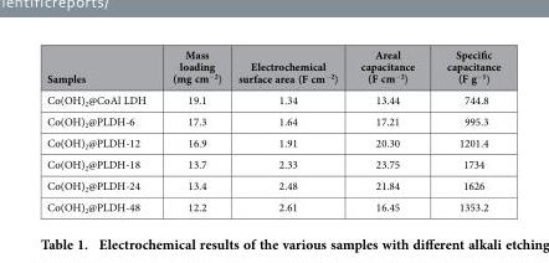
<table><thead><tr><td>Samples</td><td>Mass loading (mg cm<sup>−2</sup>)</td><td>Electrochemical surface area (F cm<sup>−2</sup>)</td><td>Areal capacitance (F cm<sup>−2</sup>)</td><td>Specific capacitance (F g<sup>−1</sup>)</td></tr></thead><tbody><tr><td>Co(OH)<sub>2</sub>@CoAl LDH</td><td>19.1</td><td>1.34</td><td>13.44</td><td>744.8</td></tr><tr><td>Co(OH)<sub>2</sub>@PLDH-6</td><td>17.3</td><td>1.64</td><td>17.21</td><td>995.3</td></tr><tr><td>Co(OH)<sub>2</sub>@PLDH-12</td><td>16.9</td><td>1.91</td><td>20.30</td><td>1201.4</td></tr><tr><td>Co(OH)<sub>2</sub>@PLDH-18</td><td>13.7</td><td>2.33</td><td>23.75</td><td>1734</td></tr><tr><td>Co(OH)<sub>2</sub>@PLDH-24</td><td>13.4</td><td>2.48</td><td>21.84</td><td>1626</td></tr><tr><td>Co(OH)<sub>2</sub>@PLDH-48</td><td>12.2</td><td>2.61</td><td>16.45</td><td>1353.2</td></tr></tbody></table>